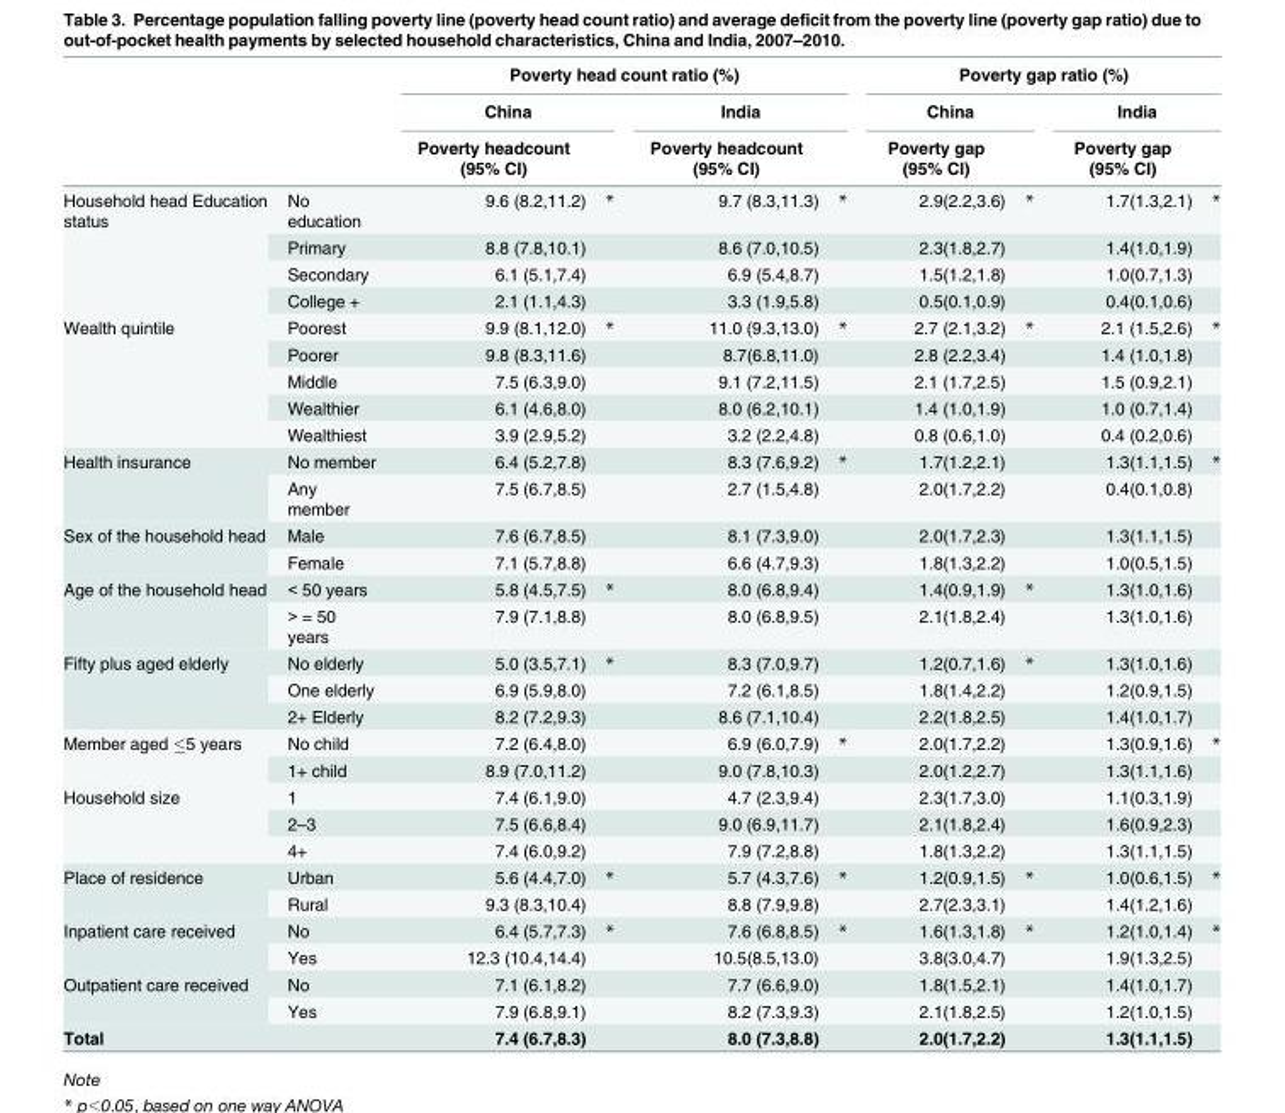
<table><thead><tr><td rowspan="3"></td><td rowspan="3"></td><td colspan="4">Poverty head count ratio (%)</td><td colspan="4">Poverty gap ratio (%)</td></tr><tr><td colspan="2">China</td><td colspan="2">India</td><td colspan="2">China</td><td colspan="2">India</td></tr><tr><td>Poverty headcount (95% CI)</td><td></td><td>Poverty headcount (95% CI)</td><td></td><td>Poverty gap (95% CI)</td><td></td><td>Poverty gap (95% CI)</td><td></td></tr></thead><tbody><tr><td rowspan="4">Household head Education status</td><td>No education</td><td>9.6 (8.2,11.2)</td><td>*</td><td>9.7 (8.3,11.3)</td><td>*</td><td>2.9(2.2,3.6)</td><td>*</td><td>1.7(1.3,2.1)</td><td>*</td></tr><tr><td>Primary</td><td>8.8 (7.8,10.1)</td><td></td><td>8.6 (7.0,10.5)</td><td></td><td>2.3(1.8,2.7)</td><td></td><td>1.4(1.0,1.9)</td><td></td></tr><tr><td>Secondary</td><td>6.1 (5.1,7.4)</td><td></td><td>6.9 (5.4,8.7)</td><td></td><td>1.5(1.2,1.8)</td><td></td><td>1.0(0.7,1.3)</td><td></td></tr><tr><td>College +</td><td>2.1 (1.1,4.3)</td><td></td><td>3.3 (1.9,5.8)</td><td></td><td>0.5(0.1,0.9)</td><td></td><td>0.4(0.1,0.6)</td><td></td></tr><tr><td rowspan="5">Wealth quintile</td><td>Poorest</td><td>9.9 (8.1,12.0)</td><td>*</td><td>11.0 (9.3,13.0)</td><td>*</td><td>2.7 (2.1,3.2)</td><td>*</td><td>2.1 (1.5,2.6)</td><td>*</td></tr><tr><td>Poorer</td><td>9.8 (8.3,11.6)</td><td></td><td>8.7(6.8,11.0)</td><td></td><td>2.8 (2.2,3.4)</td><td></td><td>1.4 (1.0,1.8)</td><td></td></tr><tr><td>Middle</td><td>7.5 (6.3,9.0)</td><td></td><td>9.1 (7.2,11.5)</td><td></td><td>2.1 (1.7,2.5)</td><td></td><td>1.5 (0.9,2.1)</td><td></td></tr><tr><td>Wealthier</td><td>6.1 (4.6,8.0)</td><td></td><td>8.0 (6.2,10.1)</td><td></td><td>1.4 (1.0,1.9)</td><td></td><td>1.0 (0.7,1.4)</td><td></td></tr><tr><td>Wealthiest</td><td>3.9 (2.9,5.2)</td><td></td><td>3.2 (2.2,4.8)</td><td></td><td>0.8 (0.6,1.0)</td><td></td><td>0.4 (0.2,0.6)</td><td></td></tr><tr><td rowspan="2">Health insurance</td><td>No member</td><td>6.4 (5.2,7.8)</td><td></td><td>8.3 (7.6,9.2)</td><td>*</td><td>1.7(1.2,2.1)</td><td></td><td>1.3(1.1,1.5)</td><td>*</td></tr><tr><td>Any member</td><td>7.5 (6.7,8.5)</td><td></td><td>2.7 (1.5,4.8)</td><td></td><td>2.0(1.7,2.2)</td><td></td><td>0.4(0.1,0.8)</td><td></td></tr><tr><td rowspan="2">Sex of the household head</td><td>Male</td><td>7.6 (6.7,8.5)</td><td></td><td>8.1 (7.3,9.0)</td><td></td><td>2.0(1.7,2.3)</td><td></td><td>1.3(1.1,1.5)</td><td></td></tr><tr><td>Female</td><td>7.1 (5.7,8.8)</td><td></td><td>6.6 (4.7,9.3)</td><td></td><td>1.8(1.3,2.2)</td><td></td><td>1.0(0.5,1.5)</td><td></td></tr><tr><td rowspan="2">Age of the household head</td><td>&lt; 50 years</td><td>5.8 (4.5,7.5)</td><td>*</td><td>8.0 (6.8,9.4)</td><td></td><td>1.4(0.9,1.9)</td><td>*</td><td>1.3(1.0,1.6)</td><td></td></tr><tr><td>&gt; = 50 years</td><td>7.9 (7.1,8.8)</td><td></td><td>8.0 (6.8,9.5)</td><td></td><td>2.1(1.8,2.4)</td><td></td><td>1.3(1.0,1.6)</td><td></td></tr><tr><td rowspan="3">Fifty plus aged elderly</td><td>No elderly</td><td>5.0 (3.5,7.1)</td><td>*</td><td>8.3 (7.0,9.7)</td><td></td><td>1.2(0.7,1.6)</td><td>*</td><td>1.3(1.0,1.6)</td><td></td></tr><tr><td>One elderly</td><td>6.9 (5.9,8.0)</td><td></td><td>7.2 (6.1,8.5)</td><td></td><td>1.8(1.4,2.2)</td><td></td><td>1.2(0.9,1.5)</td><td></td></tr><tr><td>2+ Elderly</td><td>8.2 (7.2,9.3)</td><td></td><td>8.6 (7.1,10.4)</td><td></td><td>2.2(1.8,2.5)</td><td></td><td>1.4(1.0,1.7)</td><td></td></tr><tr><td rowspan="2">Member aged ≤5 years</td><td>No child</td><td>7.2 (6.4,8.0)</td><td></td><td>6.9 (6.0,7.9)</td><td>*</td><td>2.0(1.7,2.2)</td><td></td><td>1.3(0.9,1.6)</td><td>*</td></tr><tr><td>1+ child</td><td>8.9 (7.0,11.2)</td><td></td><td>9.0 (7.8,10.3)</td><td></td><td>2.0(1.2,2.7)</td><td></td><td>1.3(1.1,1.6)</td><td></td></tr><tr><td rowspan="3">Household size</td><td>1</td><td>7.4 (6.1,9.0)</td><td></td><td>4.7 (2.3,9.4)</td><td></td><td>2.3(1.7,3.0)</td><td></td><td>1.1(0.3,1.9)</td><td></td></tr><tr><td>2–3</td><td>7.5 (6.6,8.4)</td><td></td><td>9.0 (6.9,11.7)</td><td></td><td>2.1(1.8,2.4)</td><td></td><td>1.6(0.9,2.3)</td><td></td></tr><tr><td>4+</td><td>7.4 (6.0,9.2)</td><td></td><td>7.9 (7.2,8.8)</td><td></td><td>1.8(1.3,2.2)</td><td></td><td>1.3(1.1,1.5)</td><td></td></tr><tr><td rowspan="2">Place of residence</td><td>Urban</td><td>5.6 (4.4,7.0)</td><td>*</td><td>5.7 (4.3,7.6)</td><td>*</td><td>1.2(0.9,1.5)</td><td>*</td><td>1.0(0.6,1.5)</td><td>*</td></tr><tr><td>Rural</td><td>9.3 (8.3,10.4)</td><td></td><td>8.8 (7.9,9.8)</td><td></td><td>2.7(2.3,3.1)</td><td></td><td>1.4(1.2,1.6)</td><td></td></tr><tr><td rowspan="2">Inpatient care received</td><td>No</td><td>6.4 (5.7,7.3)</td><td>*</td><td>7.6 (6.8,8.5)</td><td>*</td><td>1.6(1.3,1.8)</td><td>*</td><td>1.2(1.0,1.4)</td><td>*</td></tr><tr><td>Yes</td><td>12.3 (10.4,14.4)</td><td></td><td>10.5(8.5,13.0)</td><td></td><td>3.8(3.0,4.7)</td><td></td><td>1.9(1.3,2.5)</td><td></td></tr><tr><td rowspan="2">Outpatient care received</td><td>No</td><td>7.1 (6.1,8.2)</td><td></td><td>7.7 (6.6,9.0)</td><td></td><td>1.8(1.5,2.1)</td><td></td><td>1.4(1.0,1.7)</td><td></td></tr><tr><td>Yes</td><td>7.9 (6.8,9.1)</td><td></td><td>8.2 (7.3,9.3)</td><td></td><td>2.1(1.8,2.5)</td><td></td><td>1.2(1.0,1.5)</td><td></td></tr><tr><td>Total</td><td></td><td>7.4 (6.7,8.3)</td><td></td><td>8.0 (7.3,8.8)</td><td></td><td>2.0(1.7,2.2)</td><td></td><td>1.3(1.1,1.5)</td><td></td></tr></tbody></table>